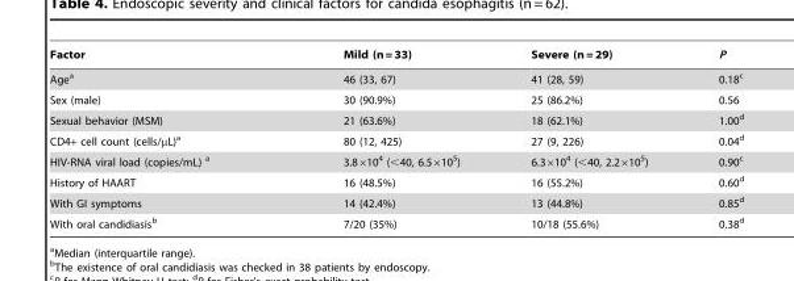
<table><thead><tr><td>Factor</td><td>Mild (n = 33)</td><td>Severe (n = 29)</td><td>P</td></tr></thead><tbody><tr><td>Age<sup>a</sup></td><td>46 (33, 67)</td><td>41 (28, 59)</td><td>0.18<sup>c</sup></td></tr><tr><td>Sex (male)</td><td>30 (90.9%)</td><td>25 (86.2%)</td><td>0.56</td></tr><tr><td>Sexual behavior (MSM)</td><td>21 (63.6%)</td><td>18 (62.1%)</td><td>1.00<sup>d</sup></td></tr><tr><td>CD4+ cell count (cells/μL)<sup>a</sup></td><td>80 (12, 425)</td><td>27 (9, 226)</td><td>0.04<sup>d</sup></td></tr><tr><td>HIV-RNA viral load (copies/mL) a</td><td>3.8×10<sup>4</sup> (&lt;40, 6.5×10<sup>5</sup>)</td><td>6.3×10<sup>4</sup> (&lt;40, 2.2×10<sup>5</sup>)</td><td>0.90<sup>c</sup></td></tr><tr><td>History of HAART</td><td>16 (48.5%)</td><td>16 (55.2%)</td><td>0.60<sup>d</sup></td></tr><tr><td>With GI symptoms</td><td>14 (42.4%)</td><td>13 (44.8%)</td><td>0.85<sup>d</sup></td></tr><tr><td>With oral candidiasis<sup>b</sup></td><td>7/20 (35%)</td><td>10/18 (55.6%)</td><td>0.38<sup>d</sup></td></tr></tbody></table>